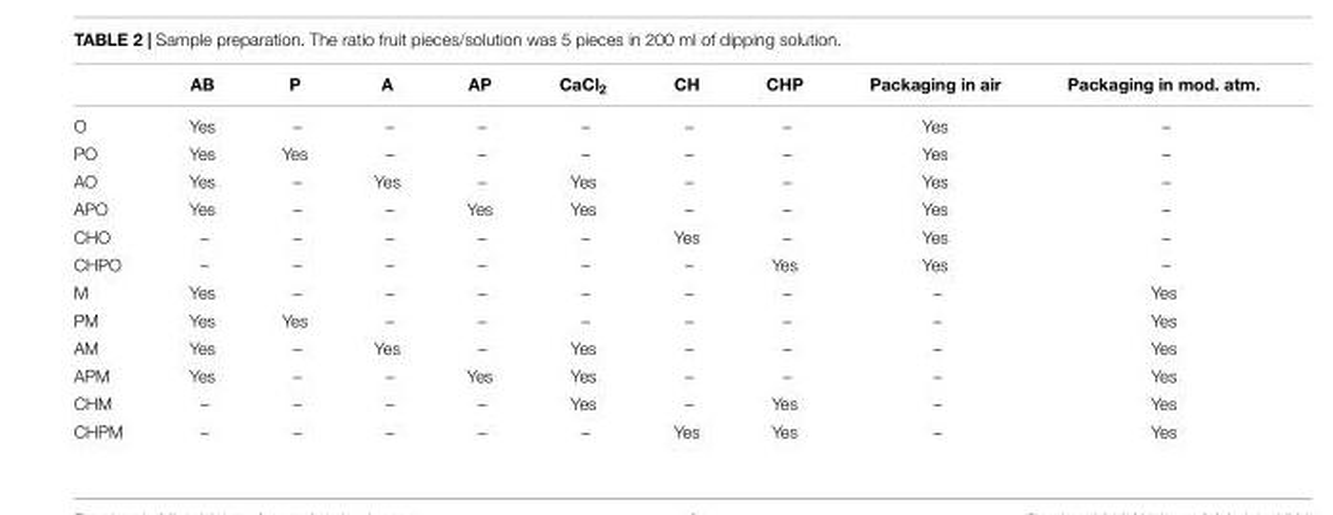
<table><thead><tr><td></td><td>AB</td><td>P</td><td>A</td><td>AP</td><td>CaCl<sub>2</sub></td><td>CH</td><td>CHP</td><td>Packaging in air</td><td>Packaging in mod. atm.</td></tr></thead><tbody><tr><td>O</td><td>Yes</td><td>–</td><td>–</td><td>–</td><td>–</td><td>–</td><td>–</td><td>Yes</td><td>–</td></tr><tr><td>PO</td><td>Yes</td><td>Yes</td><td>–</td><td>–</td><td>–</td><td>–</td><td>–</td><td>Yes</td><td>–</td></tr><tr><td>AO</td><td>Yes</td><td>–</td><td>Yes</td><td>–</td><td>Yes</td><td>–</td><td>–</td><td>Yes</td><td>–</td></tr><tr><td>APO</td><td>Yes</td><td>–</td><td>–</td><td>Yes</td><td>Yes</td><td>–</td><td>–</td><td>Yes</td><td>–</td></tr><tr><td>CHO</td><td>–</td><td>–</td><td>–</td><td>–</td><td>–</td><td>Yes</td><td>–</td><td>Yes</td><td>–</td></tr><tr><td>CHPO</td><td>–</td><td>–</td><td>–</td><td>–</td><td>–</td><td>–</td><td>Yes</td><td>Yes</td><td>–</td></tr><tr><td>M</td><td>Yes</td><td>–</td><td>–</td><td>–</td><td>–</td><td>–</td><td>–</td><td>–</td><td>Yes</td></tr><tr><td>PM</td><td>Yes</td><td>Yes</td><td>–</td><td>–</td><td>–</td><td>–</td><td>–</td><td>–</td><td>Yes</td></tr><tr><td>AM</td><td>Yes</td><td>–</td><td>Yes</td><td>–</td><td>Yes</td><td>–</td><td>–</td><td>–</td><td>Yes</td></tr><tr><td>APM</td><td>Yes</td><td>–</td><td>–</td><td>Yes</td><td>Yes</td><td>–</td><td>–</td><td>–</td><td>Yes</td></tr><tr><td>CHM</td><td>–</td><td>–</td><td>–</td><td>–</td><td>Yes</td><td>–</td><td>Yes</td><td>–</td><td>Yes</td></tr><tr><td>CHPM</td><td>–</td><td>–</td><td>–</td><td>–</td><td>–</td><td>Yes</td><td>Yes</td><td>–</td><td>Yes</td></tr></tbody></table>